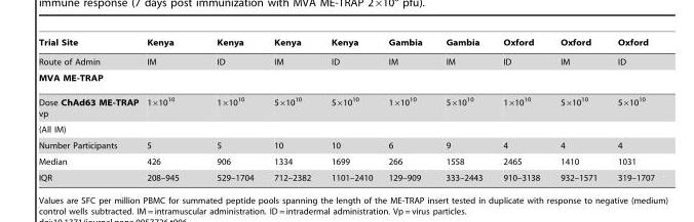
<table><thead><tr><td>Trial Site</td><td>Kenya</td><td>Kenya</td><td>Kenya</td><td>Kenya</td><td>Gambia</td><td>Gambia</td><td>Oxford</td><td>Oxford</td><td>Oxford</td></tr></thead><tbody><tr><td>Route of Admin</td><td>IM</td><td>ID</td><td>IM</td><td>ID</td><td>IM</td><td>IM</td><td>ID</td><td>IM</td><td>ID</td></tr><tr><td colspan="10">MVA ME-TRAP</td></tr><tr><td>Dose ChAd63 ME-TRAP vp</td><td>1×10<sup>10</sup></td><td>1×10<sup>10</sup></td><td>5×10<sup>10</sup></td><td>5×10<sup>10</sup></td><td>1×10<sup>10</sup></td><td>5×10<sup>10</sup></td><td>1×10<sup>10</sup></td><td>5×10<sup>10</sup></td><td>5×10<sup>10</sup></td></tr><tr><td colspan="10">(All IM)</td></tr><tr><td>Number Participants</td><td>5</td><td>5</td><td>10</td><td>10</td><td>6</td><td>9</td><td>4</td><td>4</td><td>4</td></tr><tr><td>Median</td><td>426</td><td>906</td><td>1334</td><td>1699</td><td>266</td><td>1558</td><td>2465</td><td>1410</td><td>1031</td></tr><tr><td>IQR</td><td>208–945</td><td>529–1704</td><td>712–2382</td><td>1101–2410</td><td>129–909</td><td>333–2443</td><td>910–3138</td><td>932–1571</td><td>319–1707</td></tr></tbody></table>